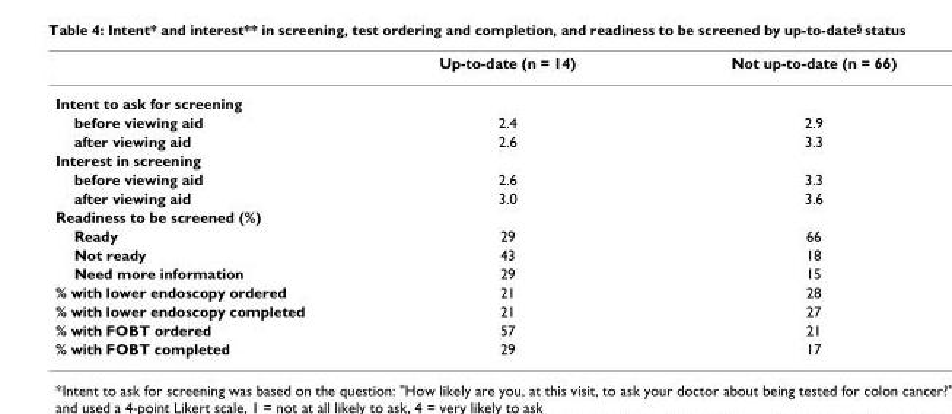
<table><thead><tr><td></td><td>Up-to-date (n = 14)</td><td>Not up-to-date (n = 66)</td></tr></thead><tbody><tr><td colspan="3">Intent to ask for screening</td></tr><tr><td>before viewing aid</td><td>2.4</td><td>2.9</td></tr><tr><td>after viewing aid</td><td>2.6</td><td>3.3</td></tr><tr><td colspan="3">Interest in screening</td></tr><tr><td>before viewing aid</td><td>2.6</td><td>3.3</td></tr><tr><td>after viewing aid</td><td>3.0</td><td>3.6</td></tr><tr><td colspan="3">Readiness to be screened (%)</td></tr><tr><td>Ready</td><td>29</td><td>66</td></tr><tr><td>Not ready</td><td>43</td><td>18</td></tr><tr><td>Need more information</td><td>29</td><td>15</td></tr><tr><td>% with lower endoscopy ordered</td><td>21</td><td>28</td></tr><tr><td>% with lower endoscopy completed</td><td>21</td><td>27</td></tr><tr><td>% with FOBT ordered</td><td>57</td><td>21</td></tr><tr><td>% with FOBT completed</td><td>29</td><td>17</td></tr></tbody></table>